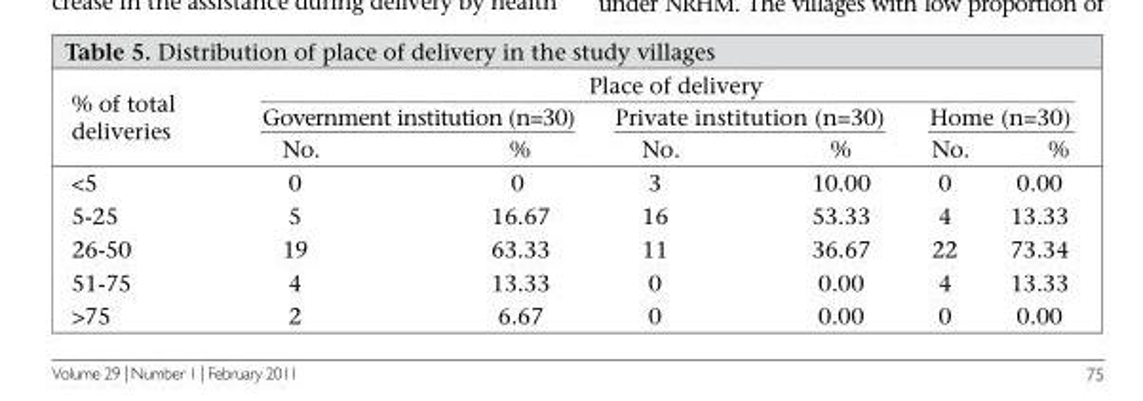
<table><thead><tr><td rowspan="3">% of total deliveries</td><td colspan="6">Place of delivery</td></tr><tr><td colspan="2">Government institution (n=30)</td><td colspan="2">Private institution (n=30)</td><td colspan="2">Home (n=30)</td></tr><tr><td>No.</td><td>%</td><td>No.</td><td>%</td><td>No.</td><td>%</td></tr></thead><tbody><tr><td>&lt;5</td><td>0</td><td>0</td><td>3</td><td>10.00</td><td>0</td><td>0.00</td></tr><tr><td>5-25</td><td>5</td><td>16.67</td><td>16</td><td>53.33</td><td>4</td><td>13.33</td></tr><tr><td>26-50</td><td>19</td><td>63.33</td><td>11</td><td>36.67</td><td>22</td><td>73.34</td></tr><tr><td>51-75</td><td>4</td><td>13.33</td><td>0</td><td>0.00</td><td>4</td><td>13.33</td></tr><tr><td>&gt;75</td><td>2</td><td>6.67</td><td>0</td><td>0.00</td><td>0</td><td>0.00</td></tr></tbody></table>